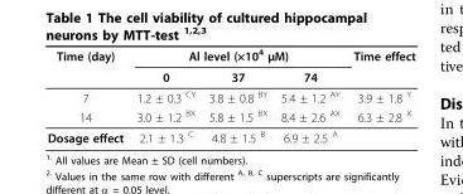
<table><thead><tr><td rowspan="2">Time (day)</td><td colspan="3">Al level (×10<sup>4</sup> μM)</td><td rowspan="2">Time effect</td></tr><tr><td>0</td><td>37</td><td>74</td></tr></thead><tbody><tr><td>7</td><td>1.2 ± 0.3 <sup>CY</sup></td><td>3.8 ± 0.8 <sup>BY</sup></td><td>5.4 ± 1.2 <sup>AY</sup></td><td>3.9 ± 1.8 <sup>Y</sup></td></tr><tr><td>14</td><td>3.0 ± 1.2 <sup>BX</sup></td><td>5.8 ± 1.5 <sup>BX</sup></td><td>8.4 ± 2.6 <sup>AX</sup></td><td>6.3 ± 2.8 <sup>X</sup></td></tr><tr><td>Dosage effect</td><td>2.1 ± 1.3 <sup>C</sup></td><td>4.8 ± 1.5 <sup>B</sup></td><td>6.9 ± 2.5 <sup>A</sup></td><td></td></tr></tbody></table>